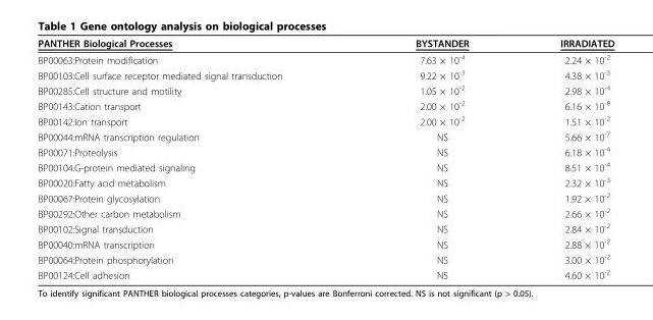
<table><thead><tr><td>PANTHER Biological Processes</td><td>BYSTANDER</td><td>IRRADIATED</td></tr></thead><tbody><tr><td>BP00063:Protein modification</td><td>7.63 × 10<sup>-4</sup></td><td>2.24 × 10<sup>-2</sup></td></tr><tr><td>BP00103:Cell surface receptor mediated signal transduction</td><td>9.22 × 10<sup>-3</sup></td><td>4.38 × 10<sup>-3</sup></td></tr><tr><td>BP00285:Cell structure and motility</td><td>1.05 × 10<sup>-2</sup></td><td>2.98 × 10<sup>-4</sup></td></tr><tr><td>BP00143:Cation transport</td><td>2.00 × 10<sup>-2</sup></td><td>6.16 × 10<sup>-8</sup></td></tr><tr><td>BP00142:Ion transport</td><td>2.00 × 10<sup>-2</sup></td><td>1.51 × 10<sup>-2</sup></td></tr><tr><td>BP00044:mRNA transcription regulation</td><td>NS</td><td>5.66 × 10<sup>-7</sup></td></tr><tr><td>BP00071:Proteolysis</td><td>NS</td><td>6.18 × 10<sup>-4</sup></td></tr><tr><td>BP00104:G-protein mediated signaling</td><td>NS</td><td>8.51 × 10<sup>-4</sup></td></tr><tr><td>BP00020:Fatty acid metabolism</td><td>NS</td><td>2.32 × 10<sup>-3</sup></td></tr><tr><td>BP00067:Protein glycosylation</td><td>NS</td><td>1.92 × 10<sup>-2</sup></td></tr><tr><td>BP00292:Other carbon metabolism</td><td>NS</td><td>2.66 × 10<sup>-2</sup></td></tr><tr><td>BP00102:Signal transduction</td><td>NS</td><td>2.84 × 10<sup>-2</sup></td></tr><tr><td>BP00040:mRNA transcription</td><td>NS</td><td>2.88 × 10<sup>-2</sup></td></tr><tr><td>BP00064:Protein phosphorylation</td><td>NS</td><td>3.00 × 10<sup>-2</sup></td></tr><tr><td>BP00124:Cell adhesion</td><td>NS</td><td>4.60 × 10<sup>-2</sup></td></tr></tbody></table>